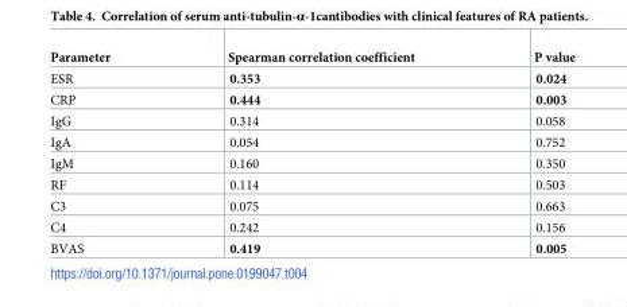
<table><thead><tr><td>Parameter</td><td>Spearman correlation coefficient</td><td>P value</td></tr></thead><tbody><tr><td>ESR</td><td>0.353</td><td>0.024</td></tr><tr><td>CRP</td><td>0.444</td><td>0.003</td></tr><tr><td>IgG</td><td>0.314</td><td>0.058</td></tr><tr><td>IgA</td><td>0.054</td><td>0.752</td></tr><tr><td>IgM</td><td>0.160</td><td>0.350</td></tr><tr><td>RF</td><td>0.114</td><td>0.503</td></tr><tr><td>C3</td><td>0.075</td><td>0.663</td></tr><tr><td>C4</td><td>0.242</td><td>0.156</td></tr><tr><td>BVAS</td><td>0.419</td><td>0.005</td></tr></tbody></table>